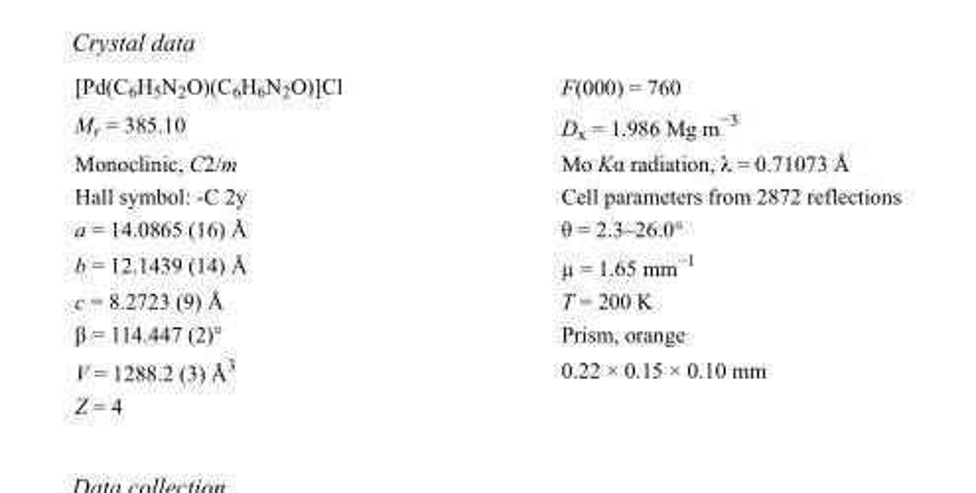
<table><tbody><tr><td>[Pd(C<sub>6</sub>H<sub>5</sub>N<sub>2</sub>O)(C<sub>6</sub>H<sub>6</sub>N<sub>2</sub>O)]Cl</td><td>F(000) = 760</td></tr><tr><td>M<sub>r</sub> = 385.10</td><td>D<sub>x</sub> = 1.986 Mg m<sup>−3</sup></td></tr><tr><td>Monoclinic, C2/m</td><td>Mo Kα radiation, λ = 0.71073 Å</td></tr><tr><td>Hall symbol: -C 2y</td><td>Cell parameters from 2872 reflections</td></tr><tr><td>a = 14.0865 (16) Å</td><td>θ = 2.3–26.0°</td></tr><tr><td>b = 12.1439 (14) Å</td><td>µ = 1.65 mm<sup>−1</sup></td></tr><tr><td>c = 8.2723 (9) Å</td><td>T = 200 K</td></tr><tr><td>β = 114.447 (2)°</td><td>Prism, orange</td></tr><tr><td>V = 1288.2 (3) Å<sup>3</sup></td><td>0.22 × 0.15 × 0.10 mm</td></tr><tr><td>Z = 4</td><td></td></tr></tbody></table>